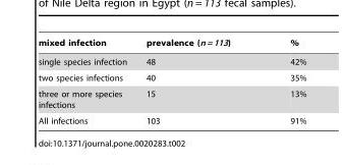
<table><thead><tr><td>mixed infection</td><td>prevalence (n = 113)</td><td>%</td></tr></thead><tbody><tr><td>single species infection</td><td>48</td><td>42%</td></tr><tr><td>two species infections</td><td>40</td><td>35%</td></tr><tr><td>three or more species infections</td><td>15</td><td>13%</td></tr><tr><td>All infections</td><td>103</td><td>91%</td></tr></tbody></table>